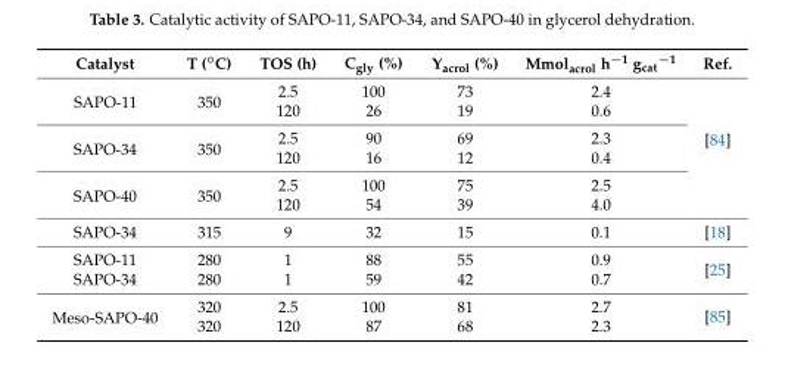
<table><thead><tr><td>Catalyst</td><td>T (◦C)</td><td>TOS (h)</td><td>C<sub>gly</sub> (%)</td><td>Y<sub>acrol</sub> (%)</td><td>Mmol<sub>acrol</sub> h<sup>−1</sup> g<sub>cat</sub><sup>−1</sup></td><td>Ref.</td></tr></thead><tbody><tr><td rowspan="2">SAPO-11</td><td rowspan="2">350</td><td>2.5</td><td>100</td><td>73</td><td>2.4</td><td rowspan="6">[84]</td></tr><tr><td>120</td><td>26</td><td>19</td><td>0.6</td></tr><tr><td rowspan="2">SAPO-34</td><td rowspan="2">350</td><td>2.5</td><td>90</td><td>69</td><td>2.3</td></tr><tr><td>120</td><td>16</td><td>12</td><td>0.4</td></tr><tr><td rowspan="2">SAPO-40</td><td rowspan="2">350</td><td>2.5</td><td>100</td><td>75</td><td>2.5</td></tr><tr><td>120</td><td>54</td><td>39</td><td>4.0</td></tr><tr><td>SAPO-34</td><td>315</td><td>9</td><td>32</td><td>15</td><td>0.1</td><td>[18]</td></tr><tr><td>SAPO-11</td><td>280</td><td>1</td><td>88</td><td>55</td><td>0.9</td><td rowspan="2">[25]</td></tr><tr><td>SAPO-34</td><td>280</td><td>1</td><td>59</td><td>42</td><td>0.7</td></tr><tr><td rowspan="2">Meso-SAPO-40</td><td>320</td><td>2.5</td><td>100</td><td>81</td><td>2.7</td><td rowspan="2">[85]</td></tr><tr><td>320</td><td>120</td><td>87</td><td>68</td><td>2.3</td></tr></tbody></table>